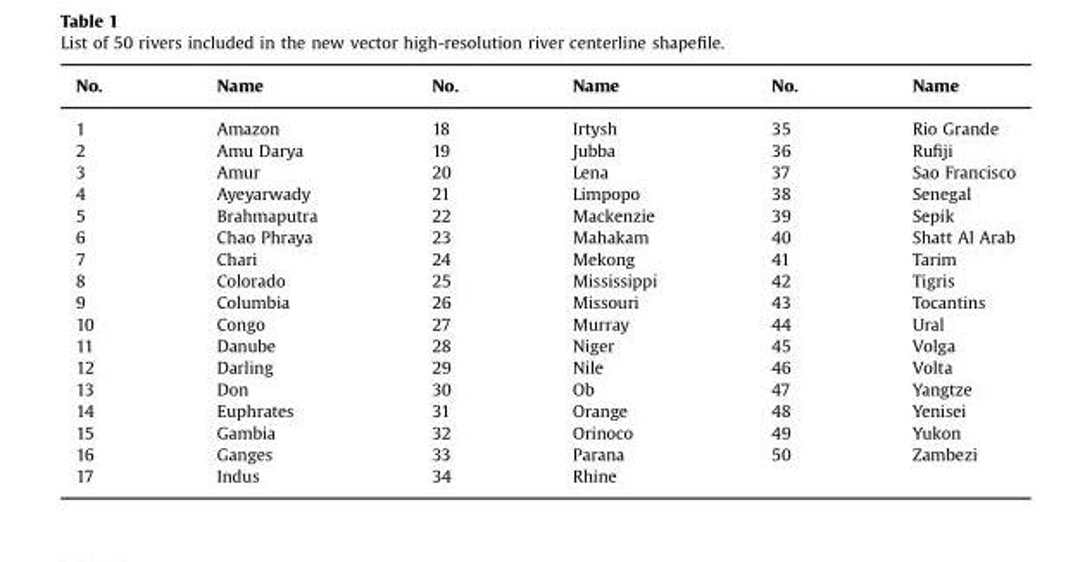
<table><thead><tr><td>No.</td><td>Name</td><td>No.</td><td>Name</td><td>No.</td><td>Name</td></tr></thead><tbody><tr><td>1</td><td>Amazon</td><td>18</td><td>Irtysh</td><td>35</td><td>Rio Grande</td></tr><tr><td>2</td><td>Amu Darya</td><td>19</td><td>Jubba</td><td>36</td><td>Rufiji</td></tr><tr><td>3</td><td>Amur</td><td>20</td><td>Lena</td><td>37</td><td>Sao Francisco</td></tr><tr><td>4</td><td>Ayeyarwady</td><td>21</td><td>Limpopo</td><td>38</td><td>Senegal</td></tr><tr><td>5</td><td>Brahmaputra</td><td>22</td><td>Mackenzie</td><td>39</td><td>Sepik</td></tr><tr><td>6</td><td>Chao Phraya</td><td>23</td><td>Mahakam</td><td>40</td><td>Shatt Al Arab</td></tr><tr><td>7</td><td>Chari</td><td>24</td><td>Mekong</td><td>41</td><td>Tarim</td></tr><tr><td>8</td><td>Colorado</td><td>25</td><td>Mississippi</td><td>42</td><td>Tigris</td></tr><tr><td>9</td><td>Columbia</td><td>26</td><td>Missouri</td><td>43</td><td>Tocantins</td></tr><tr><td>10</td><td>Congo</td><td>27</td><td>Murray</td><td>44</td><td>Ural</td></tr><tr><td>11</td><td>Danube</td><td>28</td><td>Niger</td><td>45</td><td>Volga</td></tr><tr><td>12</td><td>Darling</td><td>29</td><td>Nile</td><td>46</td><td>Volta</td></tr><tr><td>13</td><td>Don</td><td>30</td><td>Ob</td><td>47</td><td>Yangtze</td></tr><tr><td>14</td><td>Euphrates</td><td>31</td><td>Orange</td><td>48</td><td>Yenisei</td></tr><tr><td>15</td><td>Gambia</td><td>32</td><td>Orinoco</td><td>49</td><td>Yukon</td></tr><tr><td>16</td><td>Ganges</td><td>33</td><td>Parana</td><td>50</td><td>Zambezi</td></tr><tr><td>17</td><td>Indus</td><td>34</td><td>Rhine</td><td></td><td></td></tr></tbody></table>